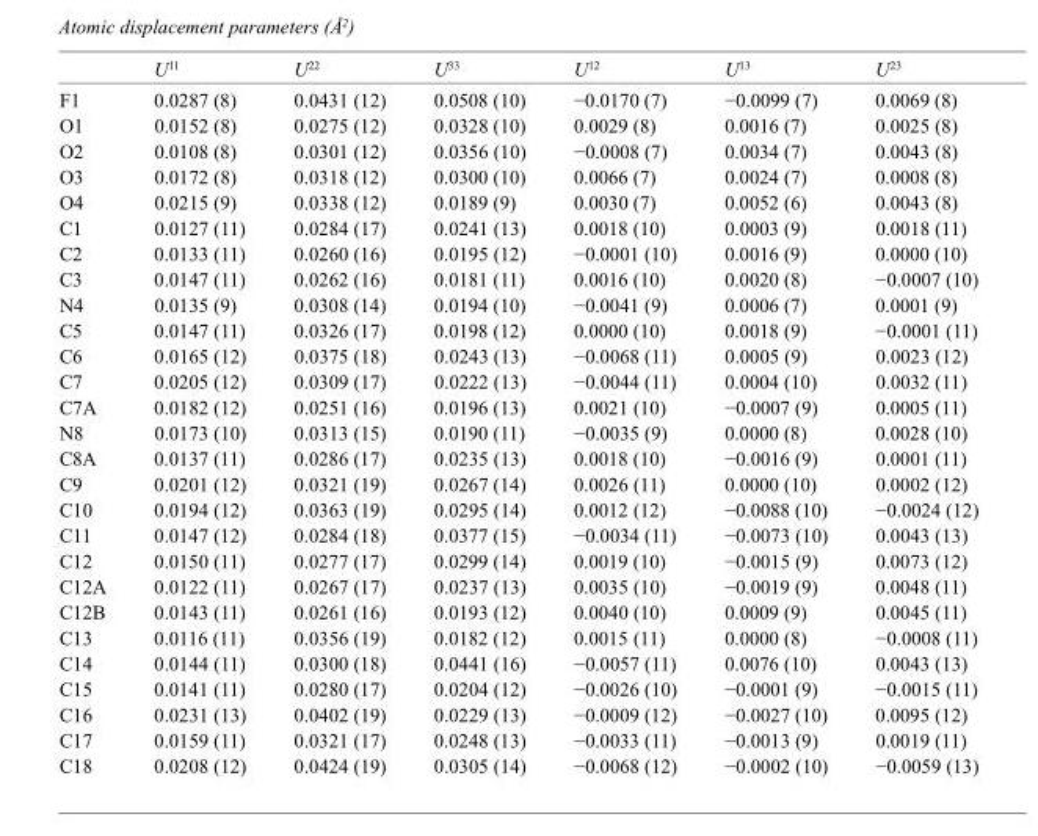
<table><thead><tr><td></td><td>U<sup>11</sup></td><td>U<sup>22</sup></td><td>U<sup>33</sup></td><td>U<sup>12</sup></td><td>U<sup>13</sup></td><td>U<sup>23</sup></td></tr></thead><tbody><tr><td>F1</td><td>0.0287 (8)</td><td>0.0431 (12)</td><td>0.0508 (10)</td><td>−0.0170 (7)</td><td>−0.0099 (7)</td><td>0.0069 (8)</td></tr><tr><td>O1</td><td>0.0152 (8)</td><td>0.0275 (12)</td><td>0.0328 (10)</td><td>0.0029 (8)</td><td>0.0016 (7)</td><td>0.0025 (8)</td></tr><tr><td>O2</td><td>0.0108 (8)</td><td>0.0301 (12)</td><td>0.0356 (10)</td><td>−0.0008 (7)</td><td>0.0034 (7)</td><td>0.0043 (8)</td></tr><tr><td>O3</td><td>0.0172 (8)</td><td>0.0318 (12)</td><td>0.0300 (10)</td><td>0.0066 (7)</td><td>0.0024 (7)</td><td>0.0008 (8)</td></tr><tr><td>O4</td><td>0.0215 (9)</td><td>0.0338 (12)</td><td>0.0189 (9)</td><td>0.0030 (7)</td><td>0.0052 (6)</td><td>0.0043 (8)</td></tr><tr><td>C1</td><td>0.0127 (11)</td><td>0.0284 (17)</td><td>0.0241 (13)</td><td>0.0018 (10)</td><td>0.0003 (9)</td><td>0.0018 (11)</td></tr><tr><td>C2</td><td>0.0133 (11)</td><td>0.0260 (16)</td><td>0.0195 (12)</td><td>−0.0001 (10)</td><td>0.0016 (9)</td><td>0.0000 (10)</td></tr><tr><td>C3</td><td>0.0147 (11)</td><td>0.0262 (16)</td><td>0.0181 (11)</td><td>0.0016 (10)</td><td>0.0020 (8)</td><td>−0.0007 (10)</td></tr><tr><td>N4</td><td>0.0135 (9)</td><td>0.0308 (14)</td><td>0.0194 (10)</td><td>−0.0041 (9)</td><td>0.0006 (7)</td><td>0.0001 (9)</td></tr><tr><td>C5</td><td>0.0147 (11)</td><td>0.0326 (17)</td><td>0.0198 (12)</td><td>0.0000 (10)</td><td>0.0018 (9)</td><td>−0.0001 (11)</td></tr><tr><td>C6</td><td>0.0165 (12)</td><td>0.0375 (18)</td><td>0.0243 (13)</td><td>−0.0068 (11)</td><td>0.0005 (9)</td><td>0.0023 (12)</td></tr><tr><td>C7</td><td>0.0205 (12)</td><td>0.0309 (17)</td><td>0.0222 (13)</td><td>−0.0044 (11)</td><td>0.0004 (10)</td><td>0.0032 (11)</td></tr><tr><td>C7A</td><td>0.0182 (12)</td><td>0.0251 (16)</td><td>0.0196 (13)</td><td>0.0021 (10)</td><td>−0.0007 (9)</td><td>0.0005 (11)</td></tr><tr><td>N8</td><td>0.0173 (10)</td><td>0.0313 (15)</td><td>0.0190 (11)</td><td>−0.0035 (9)</td><td>0.0000 (8)</td><td>0.0028 (10)</td></tr><tr><td>C8A</td><td>0.0137 (11)</td><td>0.0286 (17)</td><td>0.0235 (13)</td><td>0.0018 (10)</td><td>−0.0016 (9)</td><td>0.0001 (11)</td></tr><tr><td>C9</td><td>0.0201 (12)</td><td>0.0321 (19)</td><td>0.0267 (14)</td><td>0.0026 (11)</td><td>0.0000 (10)</td><td>0.0002 (12)</td></tr><tr><td>C10</td><td>0.0194 (12)</td><td>0.0363 (19)</td><td>0.0295 (14)</td><td>0.0012 (12)</td><td>−0.0088 (10)</td><td>−0.0024 (12)</td></tr><tr><td>C11</td><td>0.0147 (12)</td><td>0.0284 (18)</td><td>0.0377 (15)</td><td>−0.0034 (11)</td><td>−0.0073 (10)</td><td>0.0043 (13)</td></tr><tr><td>C12</td><td>0.0150 (11)</td><td>0.0277 (17)</td><td>0.0299 (14)</td><td>0.0019 (10)</td><td>−0.0015 (9)</td><td>0.0073 (12)</td></tr><tr><td>C12A</td><td>0.0122 (11)</td><td>0.0267 (17)</td><td>0.0237 (13)</td><td>0.0035 (10)</td><td>−0.0019 (9)</td><td>0.0048 (11)</td></tr><tr><td>C12B</td><td>0.0143 (11)</td><td>0.0261 (16)</td><td>0.0193 (12)</td><td>0.0040 (10)</td><td>0.0009 (9)</td><td>0.0045 (11)</td></tr><tr><td>C13</td><td>0.0116 (11)</td><td>0.0356 (19)</td><td>0.0182 (12)</td><td>0.0015 (11)</td><td>0.0000 (8)</td><td>−0.0008 (11)</td></tr><tr><td>C14</td><td>0.0144 (11)</td><td>0.0300 (18)</td><td>0.0441 (16)</td><td>−0.0057 (11)</td><td>0.0076 (10)</td><td>0.0043 (13)</td></tr><tr><td>C15</td><td>0.0141 (11)</td><td>0.0280 (17)</td><td>0.0204 (12)</td><td>−0.0026 (10)</td><td>−0.0001 (9)</td><td>−0.0015 (11)</td></tr><tr><td>C16</td><td>0.0231 (13)</td><td>0.0402 (19)</td><td>0.0229 (13)</td><td>−0.0009 (12)</td><td>−0.0027 (10)</td><td>0.0095 (12)</td></tr><tr><td>C17</td><td>0.0159 (11)</td><td>0.0321 (17)</td><td>0.0248 (13)</td><td>−0.0033 (11)</td><td>−0.0013 (9)</td><td>0.0019 (11)</td></tr><tr><td>C18</td><td>0.0208 (12)</td><td>0.0424 (19)</td><td>0.0305 (14)</td><td>−0.0068 (12)</td><td>−0.0002 (10)</td><td>−0.0059 (13)</td></tr></tbody></table>